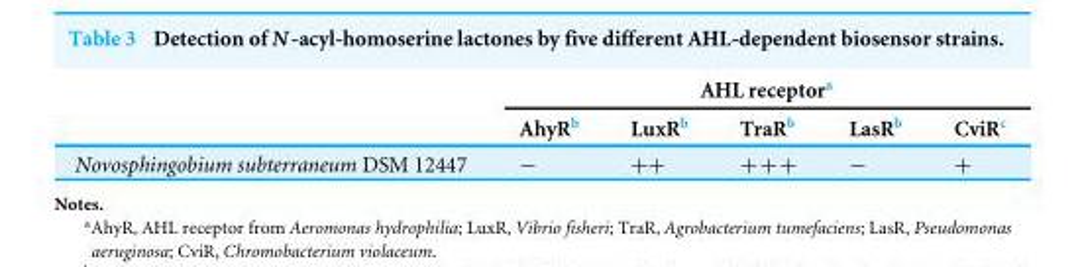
<table><thead><tr><td rowspan="2"></td><td colspan="5">AHL receptor<sup>a</sup></td></tr><tr><td>AhyR<sup>b</sup></td><td>LuxR<sup>b</sup></td><td>TraR<sup>b</sup></td><td>LasR<sup>b</sup></td><td>CviR<sup>c</sup></td></tr></thead><tbody><tr><td>Novosphingobium subterraneum DSM 12447</td><td>−</td><td>++</td><td>+++</td><td>−</td><td>+</td></tr></tbody></table>